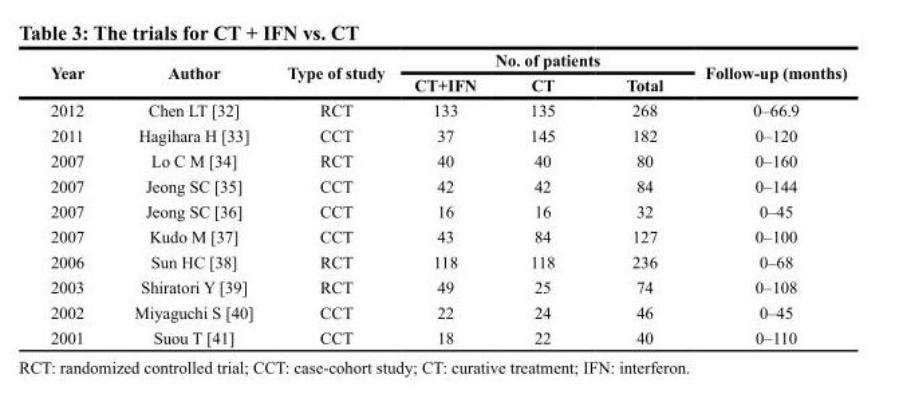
<table><thead><tr><td rowspan="2">Year</td><td rowspan="2">Author</td><td rowspan="2">Type of study</td><td colspan="3">No. of patients</td><td rowspan="2">Follow-up (months)</td></tr><tr><td>CT+IFN</td><td>CT</td><td>Total</td></tr></thead><tbody><tr><td>2012</td><td>Chen LT [32]</td><td>RCT</td><td>133</td><td>135</td><td>268</td><td>0–66.9</td></tr><tr><td>2011</td><td>Hagihara H [33]</td><td>CCT</td><td>37</td><td>145</td><td>182</td><td>0–120</td></tr><tr><td>2007</td><td>Lo C M [34]</td><td>RCT</td><td>40</td><td>40</td><td>80</td><td>0–160</td></tr><tr><td>2007</td><td>Jeong SC [35]</td><td>CCT</td><td>42</td><td>42</td><td>84</td><td>0–144</td></tr><tr><td>2007</td><td>Jeong SC [36]</td><td>CCT</td><td>16</td><td>16</td><td>32</td><td>0–45</td></tr><tr><td>2007</td><td>Kudo M [37]</td><td>CCT</td><td>43</td><td>84</td><td>127</td><td>0–100</td></tr><tr><td>2006</td><td>Sun HC [38]</td><td>RCT</td><td>118</td><td>118</td><td>236</td><td>0–68</td></tr><tr><td>2003</td><td>Shiratori Y [39]</td><td>RCT</td><td>49</td><td>25</td><td>74</td><td>0–108</td></tr><tr><td>2002</td><td>Miyaguchi S [40]</td><td>CCT</td><td>22</td><td>24</td><td>46</td><td>0–45</td></tr><tr><td>2001</td><td>Suou T [41]</td><td>CCT</td><td>18</td><td>22</td><td>40</td><td>0–110</td></tr></tbody></table>